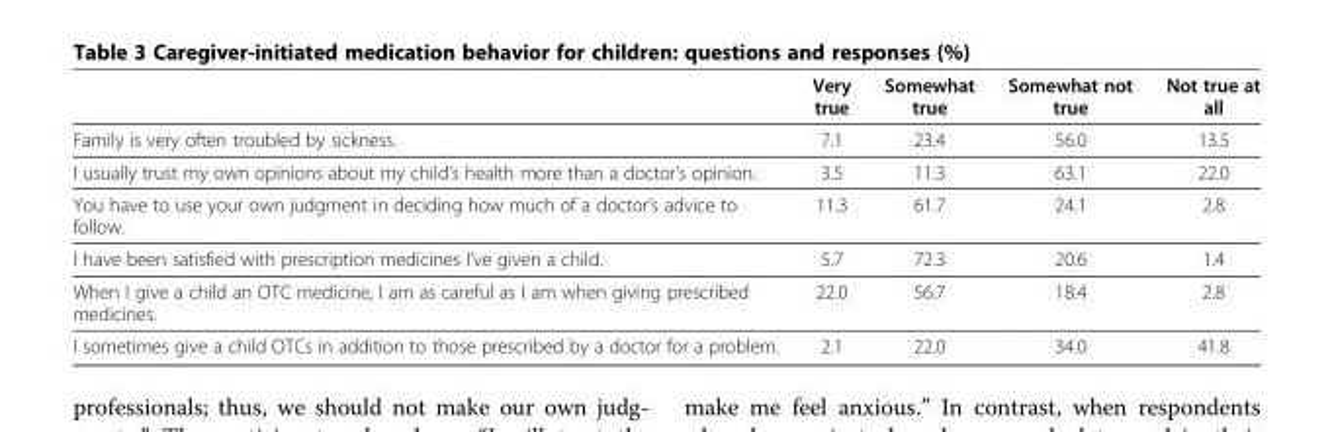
<table><thead><tr><td></td><td>Very true</td><td>Somewhat true</td><td>Somewhat not true</td><td>Not true at all</td></tr></thead><tbody><tr><td>Family is very often troubled by sickness.</td><td>7.1</td><td>23.4</td><td>56.0</td><td>13.5</td></tr><tr><td>I usually trust my own opinions about my child’s health more than a doctor’s opinion.</td><td>3.5</td><td>11.3</td><td>63.1</td><td>22.0</td></tr><tr><td>You have to use your own judgment in deciding how much of a doctor’s advice to follow.</td><td>11.3</td><td>61.7</td><td>24.1</td><td>2.8</td></tr><tr><td>I have been satisfied with prescription medicines I’ve given a child.</td><td>5.7</td><td>72.3</td><td>20.6</td><td>1.4</td></tr><tr><td>When I give a child an OTC medicine, I am as careful as I am when giving prescribed medicines.</td><td>22.0</td><td>56.7</td><td>18.4</td><td>2.8</td></tr><tr><td>I sometimes give a child OTCs in addition to those prescribed by a doctor for a problem.</td><td>2.1</td><td>22.0</td><td>34.0</td><td>41.8</td></tr></tbody></table>